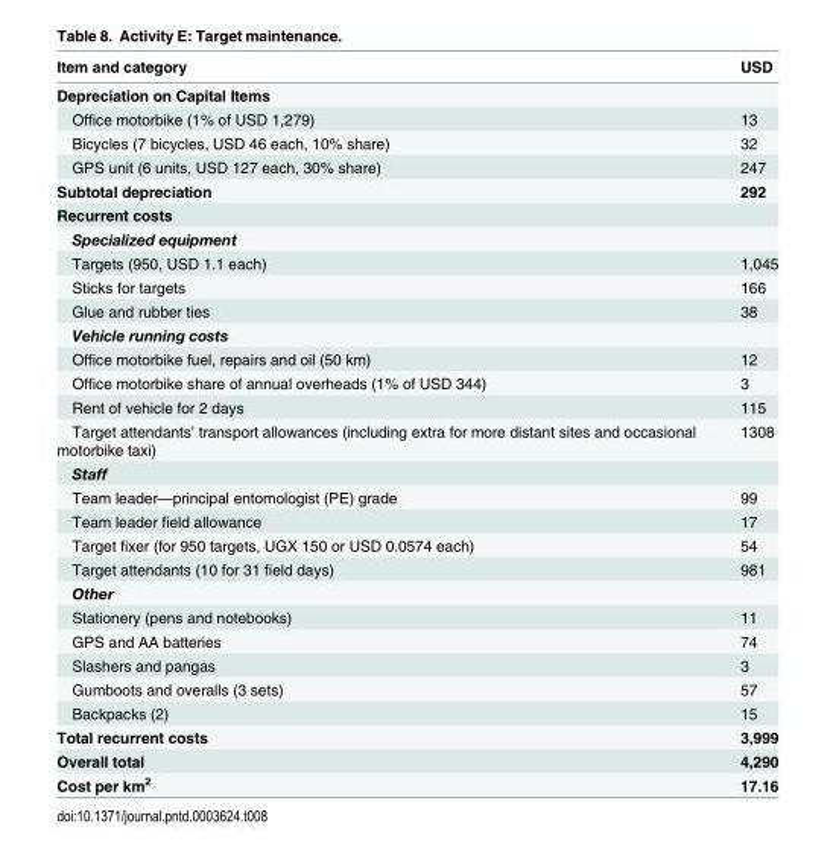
<table><thead><tr><td>Item and category</td><td>USD</td></tr></thead><tbody><tr><td colspan="2">Depreciation on Capital Items</td></tr><tr><td>Office motorbike (1% of USD 1,279)</td><td>13</td></tr><tr><td>Bicycles (7 bicycles, USD 46 each, 10% share)</td><td>32</td></tr><tr><td>GPS unit (6 units, USD 127 each, 30% share)</td><td>247</td></tr><tr><td>Subtotal depreciation</td><td>292</td></tr><tr><td colspan="2">Recurrent costs</td></tr><tr><td colspan="2">Specialized equipment</td></tr><tr><td>Targets (950, USD 1.1 each)</td><td>1,045</td></tr><tr><td>Sticks for targets</td><td>166</td></tr><tr><td>Glue and rubber ties</td><td>38</td></tr><tr><td colspan="2">Vehicle running costs</td></tr><tr><td>Office motorbike fuel, repairs and oil (50 km)</td><td>12</td></tr><tr><td>Office motorbike share of annual overheads (1% of USD 344)</td><td>3</td></tr><tr><td>Rent of vehicle for 2 days</td><td>115</td></tr><tr><td>Target attendants’ transport allowances (including extra for more distant sites and occasional motorbike taxi)</td><td>1308</td></tr><tr><td colspan="2">Staff</td></tr><tr><td>Team leader—principal entomologist (PE) grade</td><td>99</td></tr><tr><td>Team leader field allowance</td><td>17</td></tr><tr><td>Target fixer (for 950 targets, UGX 150 or USD 0.0574 each)</td><td>54</td></tr><tr><td>Target attendants (10 for 31 field days)</td><td>981</td></tr><tr><td colspan="2">Other</td></tr><tr><td>Stationery (pens and notebooks)</td><td>11</td></tr><tr><td>GPS and AA batteries</td><td>74</td></tr><tr><td>Slashers and pangas</td><td>3</td></tr><tr><td>Gumboots and overalls (3 sets)</td><td>57</td></tr><tr><td>Backpacks (2)</td><td>15</td></tr><tr><td>Total recurrent costs</td><td>3,999</td></tr><tr><td>Overall total</td><td>4,290</td></tr><tr><td>Cost per km<sup>2</sup></td><td>17.16</td></tr></tbody></table>